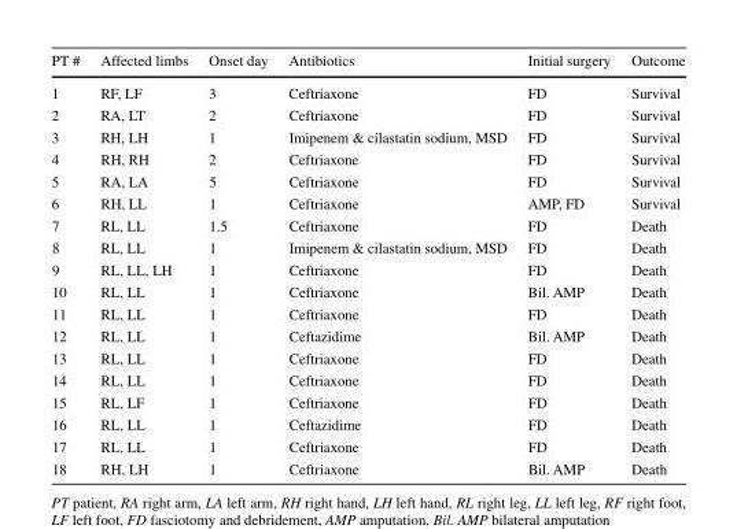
<table><thead><tr><td>PT #</td><td>Affected limbs</td><td>Onset day</td><td>Antibiotics</td><td>Initial surgery</td><td>Outcome</td></tr></thead><tbody><tr><td>1</td><td>RF, LF</td><td>3</td><td>Ceftriaxone</td><td>FD</td><td>Survival</td></tr><tr><td>2</td><td>RA, LT</td><td>2</td><td>Ceftriaxone</td><td>FD</td><td>Survival</td></tr><tr><td>3</td><td>RH, LH</td><td>1</td><td>Imipenem &amp; cilastatin sodium, MSD</td><td>FD</td><td>Survival</td></tr><tr><td>4</td><td>RH, RH</td><td>2</td><td>Ceftriaxone</td><td>FD</td><td>Survival</td></tr><tr><td>5</td><td>RA, LA</td><td>5</td><td>Ceftriaxone</td><td>FD</td><td>Survival</td></tr><tr><td>6</td><td>RH, LL</td><td>1</td><td>Ceftriaxone</td><td>AMP, FD</td><td>Survival</td></tr><tr><td>7</td><td>RL, LL</td><td>1.5</td><td>Ceftriaxone</td><td>FD</td><td>Death</td></tr><tr><td>8</td><td>RL, LL</td><td>1</td><td>Imipenem &amp; cilastatin sodium, MSD</td><td>FD</td><td>Death</td></tr><tr><td>9</td><td>RL, LL, LH</td><td>1</td><td>Ceftriaxone</td><td>FD</td><td>Death</td></tr><tr><td>10</td><td>RL, LL</td><td>1</td><td>Ceftriaxone</td><td>Bil. AMP</td><td>Death</td></tr><tr><td>11</td><td>RL, LL</td><td>1</td><td>Ceftriaxone</td><td>FD</td><td>Death</td></tr><tr><td>12</td><td>RL, LL</td><td>1</td><td>Ceftazidime</td><td>Bil. AMP</td><td>Death</td></tr><tr><td>13</td><td>RL, LL</td><td>1</td><td>Ceftriaxone</td><td>FD</td><td>Death</td></tr><tr><td>14</td><td>RL, LL</td><td>1</td><td>Ceftriaxone</td><td>FD</td><td>Death</td></tr><tr><td>15</td><td>RL, LF</td><td>1</td><td>Ceftriaxone</td><td>FD</td><td>Death</td></tr><tr><td>16</td><td>RL, LL</td><td>1</td><td>Ceftazidime</td><td>FD</td><td>Death</td></tr><tr><td>17</td><td>RL, LL</td><td>1</td><td>Ceftriaxone</td><td>FD</td><td>Death</td></tr><tr><td>18</td><td>RH, LH</td><td>1</td><td>Ceftriaxone</td><td>Bil. AMP</td><td>Death</td></tr></tbody></table>